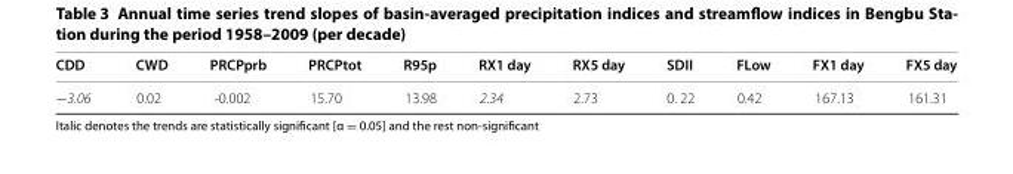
<table><thead><tr><td>CDD</td><td>CWD</td><td>PRCPprb</td><td>PRCPtot</td><td>R95p</td><td>RX1 day</td><td>RX5 day</td><td>SDII</td><td>FLow</td><td>FX1 day</td><td>FX5 day</td></tr></thead><tbody><tr><td>−3.06</td><td>0.02</td><td>-0.002</td><td>15.70</td><td>13.98</td><td>2.34</td><td>2.73</td><td>0. 22</td><td>0.42</td><td>167.13</td><td>161.31</td></tr></tbody></table>